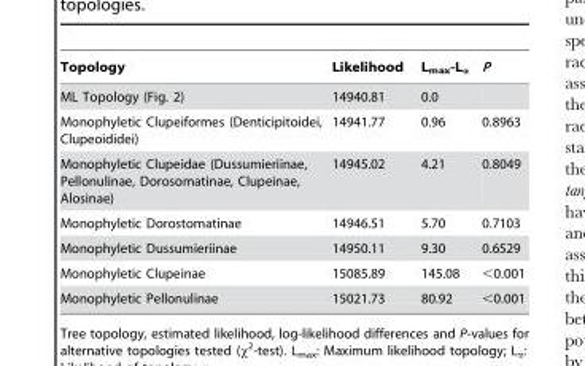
<table><thead><tr><td>Topology</td><td>Likelihood</td><td>L<sub>max</sub>-L<sub>α</sub></td><td>P</td></tr></thead><tbody><tr><td>ML Topology (Fig. 2)</td><td>14940.81</td><td>0.0</td><td></td></tr><tr><td>Monophyletic Clupeiformes (Denticipitoidei, Clupeoididei)</td><td>14941.77</td><td>0.96</td><td>0.8963</td></tr><tr><td>Monophyletic Clupeidae (Dussumieriinae, Pellonulinae, Dorosomatinae, Clupeinae, Alosinae)</td><td>14945.02</td><td>4.21</td><td>0.8049</td></tr><tr><td>Monophyletic Dorostomatinae</td><td>14946.51</td><td>5.70</td><td>0.7103</td></tr><tr><td>Monophyletic Dussumieriinae</td><td>14950.11</td><td>9.30</td><td>0.6529</td></tr><tr><td>Monophyletic Clupeinae</td><td>15085.89</td><td>145.08</td><td>&lt;0.001</td></tr><tr><td>Monophyletic Pellonulinae</td><td>15021.73</td><td>80.92</td><td>&lt;0.001</td></tr></tbody></table>